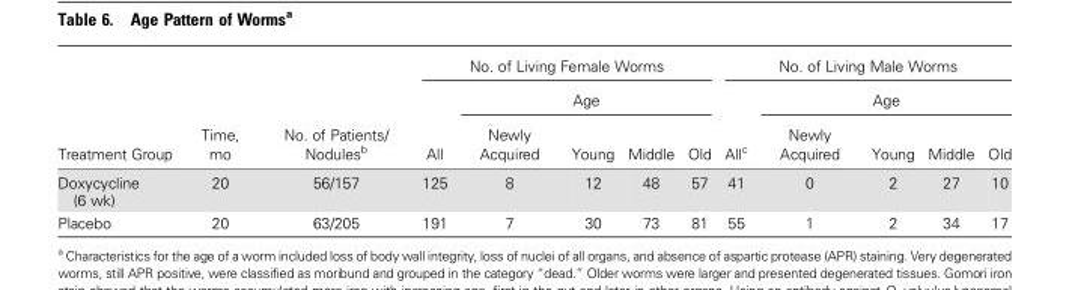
<table><thead><tr><td rowspan="3">Treatment Group</td><td rowspan="3">Time, mo</td><td rowspan="3">No. of Patients/ Nodules<sup>b</sup></td><td colspan="5">No. of Living Female Worms</td><td colspan="5">No. of Living Male Worms</td></tr><tr><td rowspan="2">All</td><td colspan="4">Age</td><td rowspan="2">All<sup>c</sup></td><td colspan="4">Age</td></tr><tr><td>Newly Acquired</td><td>Young</td><td>Middle</td><td>Old</td><td>Newly Acquired</td><td>Young</td><td>Middle</td><td>Old</td></tr></thead><tbody><tr><td>Doxycycline (6 wk)</td><td>20</td><td>56/157</td><td>125</td><td>8</td><td>12</td><td>48</td><td>57</td><td>41</td><td>0</td><td>2</td><td>27</td><td>10</td></tr><tr><td>Placebo</td><td>20</td><td>63/205</td><td>191</td><td>7</td><td>30</td><td>73</td><td>81</td><td>55</td><td>1</td><td>2</td><td>34</td><td>17</td></tr></tbody></table>